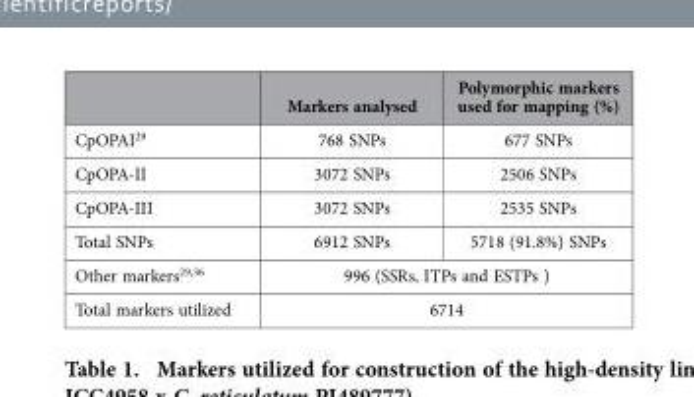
<table><thead><tr><td></td><td>Markers analysed</td><td>Polymorphic markers used for mapping (%)</td></tr></thead><tbody><tr><td>CpOPAI<sup>29</sup></td><td>768 SNPs</td><td>677 SNPs</td></tr><tr><td>CpOPA-II</td><td>3072 SNPs</td><td>2506 SNPs</td></tr><tr><td>CpOPA-III</td><td>3072 SNPs</td><td>2535 SNPs</td></tr><tr><td>Total SNPs</td><td>6912 SNPs</td><td>5718 (91.8%) SNPs</td></tr><tr><td>Other markers<sup>29</sup>,<sup>36</sup></td><td colspan="2">996 (SSRs, ITPs and ESTPs )</td></tr><tr><td>Total markers utilized</td><td colspan="2">6714</td></tr></tbody></table>